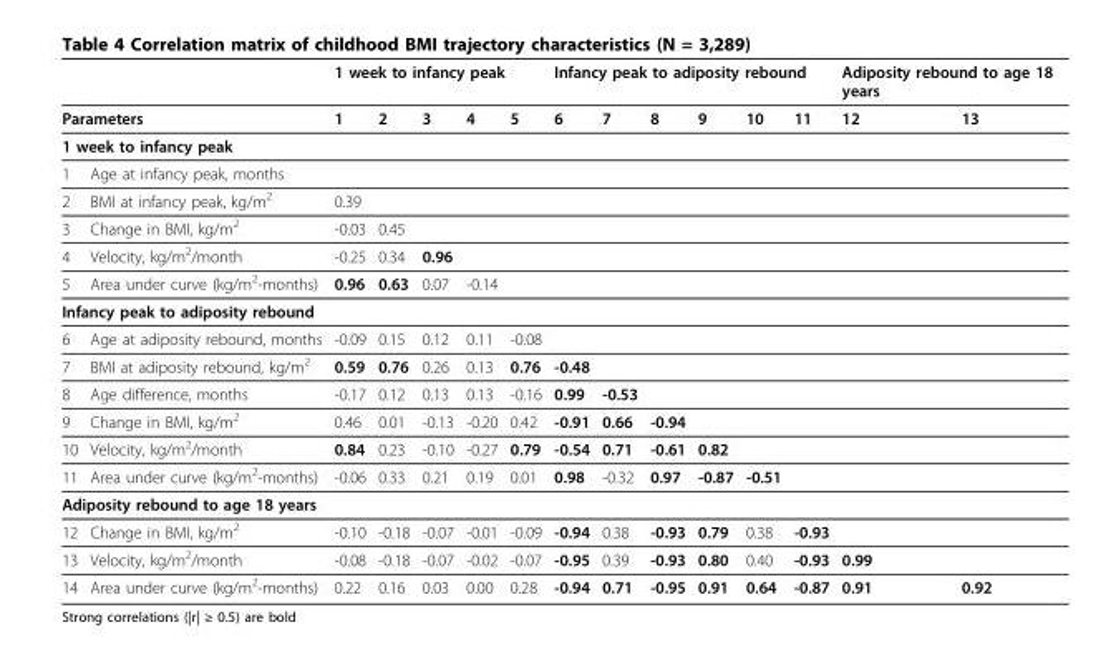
<table><thead><tr><td></td><td></td><td colspan="5">1 week to infancy peak</td><td colspan="6">Infancy peak to adiposity rebound</td><td colspan="2">Adiposity rebound to age 18 years</td></tr><tr><td colspan="2">Parameters</td><td>1</td><td>2</td><td>3</td><td>4</td><td>5</td><td>6</td><td>7</td><td>8</td><td>9</td><td>10</td><td>11</td><td>12</td><td>13</td></tr></thead><tbody><tr><td colspan="15">1 week to infancy peak</td></tr><tr><td>1</td><td>Age at infancy peak, months</td><td></td><td></td><td></td><td></td><td></td><td></td><td></td><td></td><td></td><td></td><td></td><td></td><td></td></tr><tr><td>2</td><td>BMI at infancy peak, kg/m<sup>2</sup></td><td>0.39</td><td></td><td></td><td></td><td></td><td></td><td></td><td></td><td></td><td></td><td></td><td></td><td></td></tr><tr><td>3</td><td>Change in BMI, kg/m<sup>2</sup></td><td>-0.03</td><td>0.45</td><td></td><td></td><td></td><td></td><td></td><td></td><td></td><td></td><td></td><td></td><td></td></tr><tr><td>4</td><td>Velocity, kg/m<sup>2</sup>/month</td><td>-0.25</td><td>0.34</td><td>0.96</td><td></td><td></td><td></td><td></td><td></td><td></td><td></td><td></td><td></td><td></td></tr><tr><td>5</td><td>Area under curve (kg/m<sup>2</sup>-months)</td><td>0.96</td><td>0.63</td><td>0.07</td><td>-0.14</td><td></td><td></td><td></td><td></td><td></td><td></td><td></td><td></td><td></td></tr><tr><td colspan="15">Infancy peak to adiposity rebound</td></tr><tr><td>6</td><td>Age at adiposity rebound, months</td><td>-0.09</td><td>0.15</td><td>0.12</td><td>0.11</td><td>-0.08</td><td></td><td></td><td></td><td></td><td></td><td></td><td></td><td></td></tr><tr><td>7</td><td>BMI at adiposity rebound, kg/m<sup>2</sup></td><td>0.59</td><td>0.76</td><td>0.26</td><td>0.13</td><td>0.76</td><td>-0.48</td><td></td><td></td><td></td><td></td><td></td><td></td><td></td></tr><tr><td>8</td><td>Age difference, months</td><td>-0.17</td><td>0.12</td><td>0.13</td><td>0.13</td><td>-0.16</td><td>0.99</td><td>-0.53</td><td></td><td></td><td></td><td></td><td></td><td></td></tr><tr><td>9</td><td>Change in BMI, kg/m<sup>2</sup></td><td>0.46</td><td>0.01</td><td>-0.13</td><td>-0.20</td><td>0.42</td><td>-0.91</td><td>0.66</td><td>-0.94</td><td></td><td></td><td></td><td></td><td></td></tr><tr><td>10</td><td>Velocity, kg/m<sup>2</sup>/month</td><td>0.84</td><td>0.23</td><td>-0.10</td><td>-0.27</td><td>0.79</td><td>-0.54</td><td>0.71</td><td>-0.61</td><td>0.82</td><td></td><td></td><td></td><td></td></tr><tr><td>11</td><td>Area under curve (kg/m<sup>2</sup>-months)</td><td>-0.06</td><td>0.33</td><td>0.21</td><td>0.19</td><td>0.01</td><td>0.98</td><td>-0.32</td><td>0.97</td><td>-0.87</td><td>-0.51</td><td></td><td></td><td></td></tr><tr><td colspan="15">Adiposity rebound to age 18 years</td></tr><tr><td>12</td><td>Change in BMI, kg/m<sup>2</sup></td><td>-0.10</td><td>-0.18</td><td>-0.07</td><td>-0.01</td><td>-0.09</td><td>-0.94</td><td>0.38</td><td>-0.93</td><td>0.79</td><td>0.38</td><td>-0.93</td><td></td><td></td></tr><tr><td>13</td><td>Velocity, kg/m<sup>2</sup>/month</td><td>-0.08</td><td>-0.18</td><td>-0.07</td><td>-0.02</td><td>-0.07</td><td>-0.95</td><td>0.39</td><td>-0.93</td><td>0.80</td><td>0.40</td><td>-0.93</td><td>0.99</td><td></td></tr><tr><td>14</td><td>Area under curve (kg/m<sup>2</sup>-months)</td><td>0.22</td><td>0.16</td><td>0.03</td><td>0.00</td><td>0.28</td><td>-0.94</td><td>0.71</td><td>-0.95</td><td>0.91</td><td>0.64</td><td>-0.87</td><td>0.91</td><td>0.92</td></tr></tbody></table>